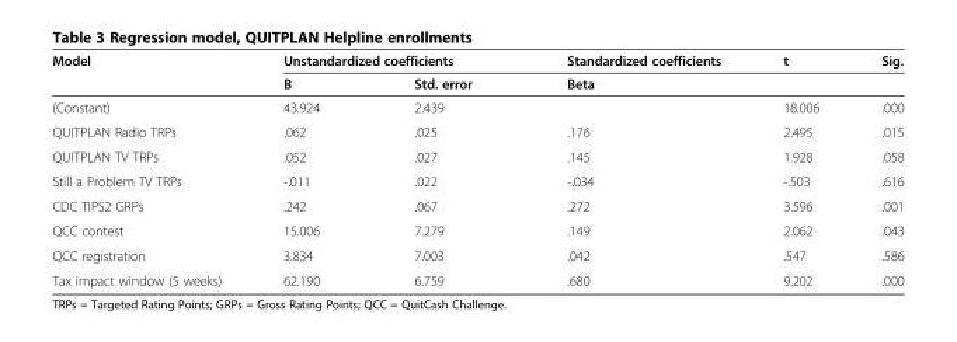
<table><thead><tr><td rowspan="2">Model</td><td colspan="2">Unstandardized coefficients</td><td rowspan="2">Standardized coefficients Beta</td><td rowspan="2">t</td><td rowspan="2">Sig.</td></tr><tr><td>B</td><td>Std. error</td></tr></thead><tbody><tr><td>(Constant)</td><td>43.924</td><td>2.439</td><td></td><td>18.006</td><td>.000</td></tr><tr><td>QUITPLAN Radio TRPs</td><td>.062</td><td>.025</td><td>.176</td><td>2.495</td><td>.015</td></tr><tr><td>QUITPLAN TV TRPs</td><td>.052</td><td>.027</td><td>.145</td><td>1.928</td><td>.058</td></tr><tr><td>Still a Problem TV TRPs</td><td>-.011</td><td>.022</td><td>-.034</td><td>-.503</td><td>.616</td></tr><tr><td>CDC TIPS2 GRPs</td><td>.242</td><td>.067</td><td>.272</td><td>3.596</td><td>.001</td></tr><tr><td>QCC contest</td><td>15.006</td><td>7.279</td><td>.149</td><td>2.062</td><td>.043</td></tr><tr><td>QCC registration</td><td>3.834</td><td>7.003</td><td>.042</td><td>.547</td><td>.586</td></tr><tr><td>Tax impact window (5 weeks)</td><td>62.190</td><td>6.759</td><td>.680</td><td>9.202</td><td>.000</td></tr></tbody></table>